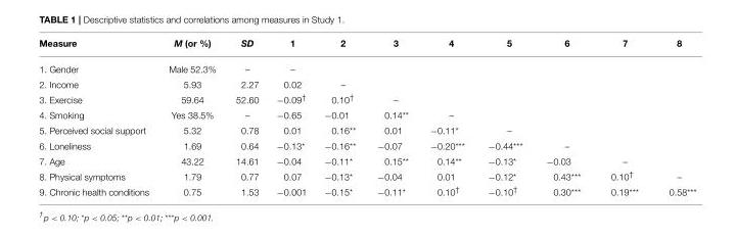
<table><thead><tr><td>Measure</td><td>M (or %)</td><td>SD</td><td>1</td><td>2</td><td>3</td><td>4</td><td>5</td><td>6</td><td>7</td><td>8</td></tr></thead><tbody><tr><td>1. Gender</td><td>Male 52.3%</td><td>–</td><td>–</td><td></td><td></td><td></td><td></td><td></td><td></td><td></td></tr><tr><td>2. Income</td><td>5.93</td><td>2.27</td><td>0.02</td><td>–</td><td></td><td></td><td></td><td></td><td></td><td></td></tr><tr><td>3. Exercise</td><td>59.64</td><td>52.60</td><td>−0.09<sup>†</sup></td><td>0.10<sup>†</sup></td><td>–</td><td></td><td></td><td></td><td></td><td></td></tr><tr><td>4. Smoking</td><td>Yes 38.5%</td><td>–</td><td>−0.65</td><td>−0.01</td><td>0.14**</td><td>–</td><td></td><td></td><td></td><td></td></tr><tr><td>5. Perceived social support</td><td>5.32</td><td>0.78</td><td>0.01</td><td>0.16**</td><td>0.01</td><td>−0.11*</td><td>–</td><td></td><td></td><td></td></tr><tr><td>6. Loneliness</td><td>1.69</td><td>0.64</td><td>−0.13*</td><td>−0.16**</td><td>−0.07</td><td>−0.20***</td><td>−0.44***</td><td>–</td><td></td><td></td></tr><tr><td>7. Age</td><td>43.22</td><td>14.61</td><td>−0.04</td><td>−0.11*</td><td>0.15**</td><td>0.14**</td><td>−0.13*</td><td>−0.03</td><td>–</td><td></td></tr><tr><td>8. Physical symptoms</td><td>1.79</td><td>0.77</td><td>0.07</td><td>−0.13*</td><td>−0.04</td><td>0.01</td><td>−0.12*</td><td>0.43***</td><td>0.10<sup>†</sup></td><td>–</td></tr><tr><td>9. Chronic health conditions</td><td>0.75</td><td>1.53</td><td>−0.001</td><td>−0.15*</td><td>−0.11*</td><td>0.10<sup>†</sup></td><td>−0.10<sup>†</sup></td><td>0.30***</td><td>0.19***</td><td>0.58***</td></tr></tbody></table>